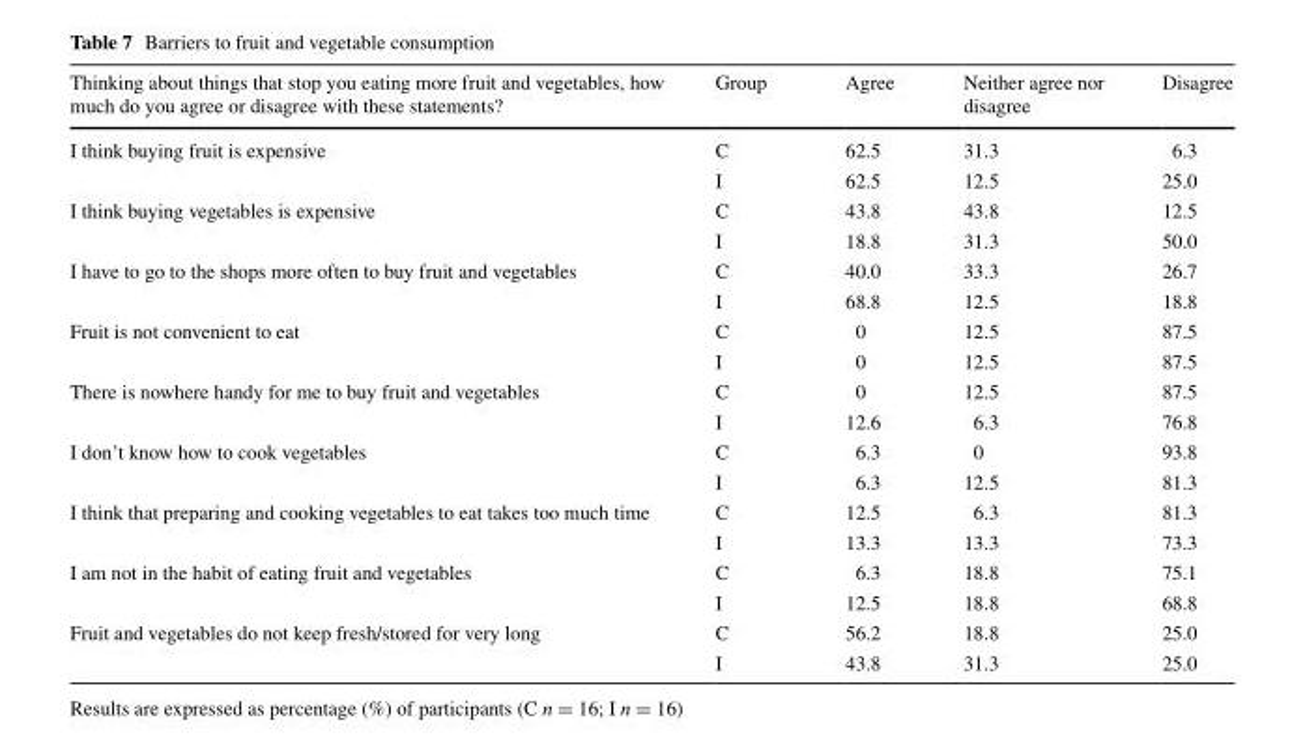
<table><thead><tr><td>Thinking about things that stop you eating more fruit and vegetables, how much do you agree or disagree with these statements?</td><td>Group</td><td>Agree</td><td>Neither agree nor disagree</td><td>Disagree</td></tr></thead><tbody><tr><td rowspan="2">I think buying fruit is expensive</td><td>C</td><td>62.5</td><td>31.3</td><td>6.3</td></tr><tr><td>I</td><td>62.5</td><td>12.5</td><td>25.0</td></tr><tr><td rowspan="2">I think buying vegetables is expensive</td><td>C</td><td>43.8</td><td>43.8</td><td>12.5</td></tr><tr><td>I</td><td>18.8</td><td>31.3</td><td>50.0</td></tr><tr><td rowspan="2">I have to go to the shops more often to buy fruit and vegetables</td><td>C</td><td>40.0</td><td>33.3</td><td>26.7</td></tr><tr><td>I</td><td>68.8</td><td>12.5</td><td>18.8</td></tr><tr><td rowspan="2">Fruit is not convenient to eat</td><td>C</td><td>0</td><td>12.5</td><td>87.5</td></tr><tr><td>I</td><td>0</td><td>12.5</td><td>87.5</td></tr><tr><td rowspan="2">There is nowhere handy for me to buy fruit and vegetables</td><td>C</td><td>0</td><td>12.5</td><td>87.5</td></tr><tr><td>I</td><td>12.6</td><td>6.3</td><td>76.8</td></tr><tr><td rowspan="2">I don’t know how to cook vegetables</td><td>C</td><td>6.3</td><td>0</td><td>93.8</td></tr><tr><td>I</td><td>6.3</td><td>12.5</td><td>81.3</td></tr><tr><td rowspan="2">I think that preparing and cooking vegetables to eat takes too much time</td><td>C</td><td>12.5</td><td>6.3</td><td>81.3</td></tr><tr><td>I</td><td>13.3</td><td>13.3</td><td>73.3</td></tr><tr><td rowspan="2">I am not in the habit of eating fruit and vegetables</td><td>C</td><td>6.3</td><td>18.8</td><td>75.1</td></tr><tr><td>I</td><td>12.5</td><td>18.8</td><td>68.8</td></tr><tr><td rowspan="2">Fruit and vegetables do not keep fresh/stored for very long</td><td>C</td><td>56.2</td><td>18.8</td><td>25.0</td></tr><tr><td>I</td><td>43.8</td><td>31.3</td><td>25.0</td></tr></tbody></table>